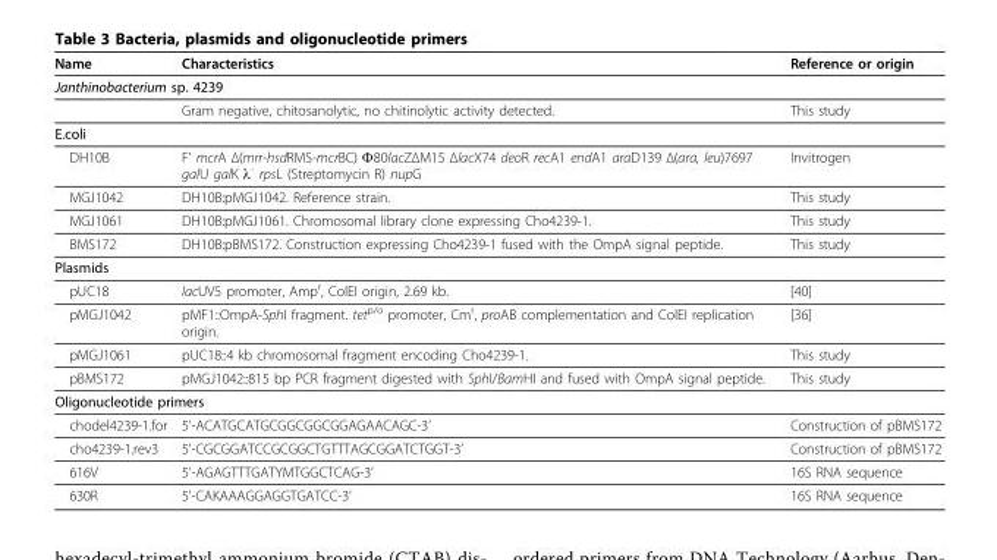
<table><thead><tr><td>Name</td><td>Characteristics</td><td>Reference or origin</td></tr></thead><tbody><tr><td colspan="3">Janthinobacterium sp. 4239</td></tr><tr><td></td><td>Gram negative, chitosanolytic, no chitinolytic activity detected.</td><td>This study</td></tr><tr><td colspan="3">E.coli</td></tr><tr><td>DH10B</td><td>F’ mcrA Δ(mrr-hsdRMS-mcrBC) Φ80lacZΔM15 ΔlacX74 deoR recA1 endA1 araD139 Δ(ara, leu)7697 galU galK λ<sup>-</sup> rpsL (Streptomycin R) nupG</td><td>Invitrogen</td></tr><tr><td>MGJ1042</td><td>DH10B:pMGJ1042. Reference strain.</td><td>This study</td></tr><tr><td>MGJ1061</td><td>DH10B:pMGJ1061. Chromosomal library clone expressing Cho4239-1.</td><td>This study</td></tr><tr><td>BMS172</td><td>DH10B:pBMS172. Construction expressing Cho4239-1 fused with the OmpA signal peptide.</td><td>This study</td></tr><tr><td colspan="3">Plasmids</td></tr><tr><td>pUC18</td><td>lacUV5 promoter, Amp<sup>r</sup>, ColEI origin, 2.69 kb.</td><td>[40]</td></tr><tr><td>pMGJ1042</td><td>pMF1::OmpA-SphI fragment. tet<sup>p/o</sup> promoter, Cm<sup>r</sup>, proAB complementation and ColEI replication origin.</td><td>[36]</td></tr><tr><td>pMGJ1061</td><td>pUC18::4 kb chromosomal fragment encoding Cho4239-1.</td><td>This study</td></tr><tr><td>pBMS172</td><td>pMGJ1042::815 bp PCR fragment digested with SphI/BamHI and fused with OmpA signal peptide.</td><td>This study</td></tr><tr><td colspan="3">Oligonucleotide primers</td></tr><tr><td>chodel4239-1.for</td><td>5’-ACATGCATGCGGCGGCGGAGAACAGC-3’</td><td>Construction of pBMS172</td></tr><tr><td>cho4239-1.rev3</td><td>5’-CGCGGATCCGCGGCTGTTTAGCGGATCTGGT-3’</td><td>Construction of pBMS172</td></tr><tr><td>616V</td><td>5’-AGAGTTTGATYMTGGCTCAG-3’</td><td>16S RNA sequence</td></tr><tr><td>630R</td><td>5’-CAKAAAGGAGGTGATCC-3’</td><td>16S RNA sequence</td></tr></tbody></table>